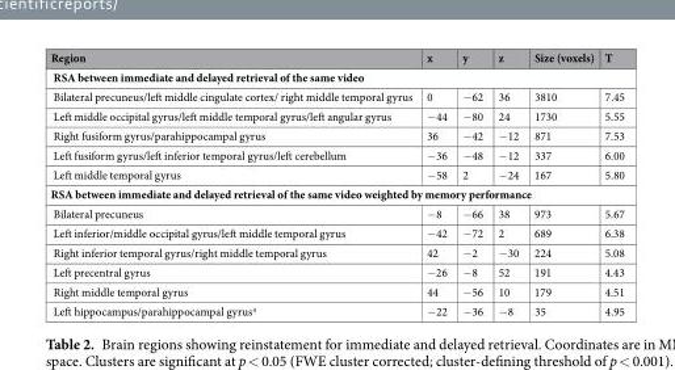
<table><thead><tr><td>Region</td><td>x</td><td>y</td><td>z</td><td>Size (voxels)</td><td>T</td></tr></thead><tbody><tr><td colspan="6">RSA between immediate and delayed retrieval of the same video</td></tr><tr><td>Bilateral precuneus/left middle cingulate cortex/ right middle temporal gyrus</td><td>0</td><td>−62</td><td>36</td><td>3810</td><td>7.45</td></tr><tr><td>Left middle occipital gyrus/left middle temporal gyrus/left angular gyrus</td><td>−44</td><td>−80</td><td>24</td><td>1730</td><td>5.55</td></tr><tr><td>Right fusiform gyrus/parahippocampal gyrus</td><td>36</td><td>−42</td><td>−12</td><td>871</td><td>7.53</td></tr><tr><td>Left fusiform gyrus/left inferior temporal gyrus/left cerebellum</td><td>−36</td><td>−48</td><td>−12</td><td>337</td><td>6.00</td></tr><tr><td>Left middle temporal gyrus</td><td>−58</td><td>2</td><td>−24</td><td>167</td><td>5.80</td></tr><tr><td colspan="6">RSA between immediate and delayed retrieval of the same video weighted by memory performance</td></tr><tr><td>Bilateral precuneus</td><td>−8</td><td>−66</td><td>38</td><td>973</td><td>5.67</td></tr><tr><td>Left inferior/middle occipital gyrus/left middle temporal gyrus</td><td>−42</td><td>−72</td><td>2</td><td>689</td><td>6.38</td></tr><tr><td>Right inferior temporal gyrus/right middle temporal gyrus</td><td>42</td><td>−2</td><td>−30</td><td>224</td><td>5.08</td></tr><tr><td>Left precentral gyrus</td><td>−26</td><td>−8</td><td>52</td><td>191</td><td>4.43</td></tr><tr><td>Right middle temporal gyrus</td><td>44</td><td>−56</td><td>10</td><td>179</td><td>4.51</td></tr><tr><td>Left hippocampus/parahippocampal gyrus<sup>a</sup></td><td>−22</td><td>−36</td><td>−8</td><td>35</td><td>4.95</td></tr></tbody></table>